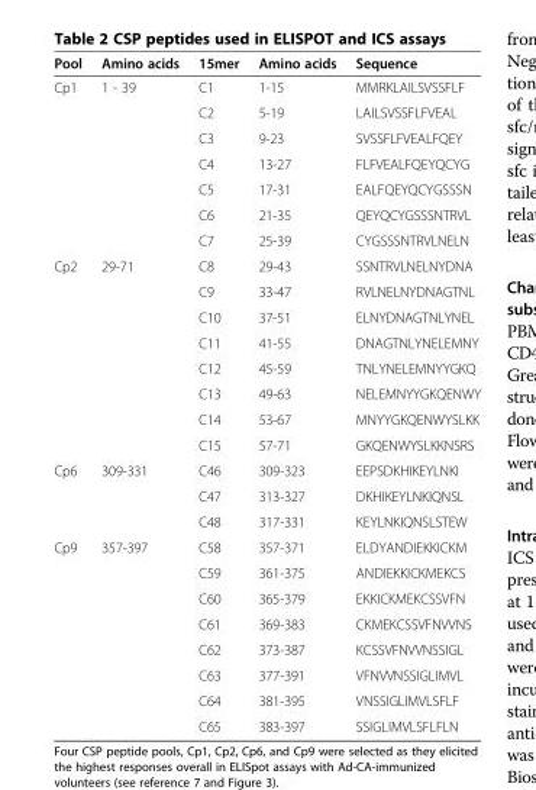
<table><thead><tr><td>Pool</td><td>Amino acids</td><td>15mer</td><td>Amino acids</td><td>Sequence</td></tr></thead><tbody><tr><td rowspan="7">Cp1</td><td>1 - 39</td><td>C1</td><td>1-15</td><td>MMRKLAILSVSSFLF</td></tr><tr><td></td><td>C2</td><td>5-19</td><td>LAILSVSSFLFVEAL</td></tr><tr><td></td><td>C3</td><td>9-23</td><td>SVSSFLFVEALFQEY</td></tr><tr><td></td><td>C4</td><td>13-27</td><td>FLFVEALFQEYQCYG</td></tr><tr><td></td><td>C5</td><td>17-31</td><td>EALFQEYQCYGSSSN</td></tr><tr><td></td><td>C6</td><td>21-35</td><td>QEYQCYGSSSNTRVL</td></tr><tr><td></td><td>C7</td><td>25-39</td><td>CYGSSSNTRVLNELN</td></tr><tr><td rowspan="8">Cp2</td><td>29-71</td><td>C8</td><td>29-43</td><td>SSNTRVLNELNYDNA</td></tr><tr><td></td><td>C9</td><td>33-47</td><td>RVLNELNYDNAGTNL</td></tr><tr><td></td><td>C10</td><td>37-51</td><td>ELNYDNAGTNLYNEL</td></tr><tr><td></td><td>C11</td><td>41-55</td><td>DNAGTNLYNELEMNY</td></tr><tr><td></td><td>C12</td><td>45-59</td><td>TNLYNELEMNYYGKQ</td></tr><tr><td></td><td>C13</td><td>49-63</td><td>NELEMNYYGKQENWY</td></tr><tr><td></td><td>C14</td><td>53-67</td><td>MNYYGKQENWYSLKK</td></tr><tr><td></td><td>C15</td><td>57-71</td><td>GKQENWYSLKKNSRS</td></tr><tr><td rowspan="3">Cp6</td><td>309-331</td><td>C46</td><td>309-323</td><td>EEPSDKHIKEYLNKI</td></tr><tr><td></td><td>C47</td><td>313-327</td><td>DKHIKEYLNKIQNSL</td></tr><tr><td></td><td>C48</td><td>317-331</td><td>KEYLNKIQNSLSTEW</td></tr><tr><td rowspan="8">Cp9</td><td>357-397</td><td>C58</td><td>357-371</td><td>ELDYANDIEKKICKM</td></tr><tr><td></td><td>C59</td><td>361-375</td><td>ANDIEKKICKMEKCS</td></tr><tr><td></td><td>C60</td><td>365-379</td><td>EKKICKMEKCSSVFN</td></tr><tr><td></td><td>C61</td><td>369-383</td><td>CKMEKCSSVFNVVNS</td></tr><tr><td></td><td>C62</td><td>373-387</td><td>KCSSVFNVVNSSIGL</td></tr><tr><td></td><td>C63</td><td>377-391</td><td>VFNVVNSSIGLIMVL</td></tr><tr><td></td><td>C64</td><td>381-395</td><td>VNSSIGLIMVLSFLF</td></tr><tr><td></td><td>C65</td><td>383-397</td><td>SSIGLIMVLSFLFLN</td></tr></tbody></table>